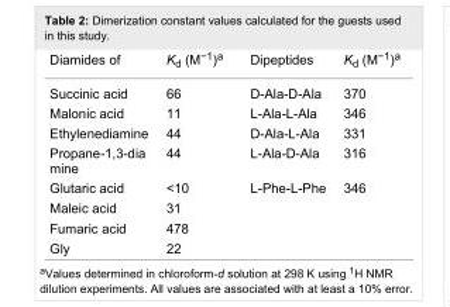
<table><tbody><tr><td>Diamides of</td><td>K<sub>d</sub> (M<sup>−1</sup>)<sup>a</sup></td><td>Dipeptides</td><td>K<sub>d</sub> (M<sup>−1</sup>)<sup>a</sup></td></tr><tr><td>Succinic acid</td><td>66</td><td>D-Ala-D-Ala</td><td>370</td></tr><tr><td>Malonic acid</td><td>11</td><td>L-Ala-L-Ala</td><td>346</td></tr><tr><td>Ethylenediamine</td><td>44</td><td>D-Ala-L-Ala</td><td>331</td></tr><tr><td>Propane-1,3-dia mine</td><td>44</td><td>L-Ala-D-Ala</td><td>316</td></tr><tr><td>Glutaric acid</td><td>&lt;10</td><td>L-Phe-L-Phe</td><td>346</td></tr><tr><td>Maleic acid</td><td>31</td><td></td><td></td></tr><tr><td>Fumaric acid</td><td>478</td><td></td><td></td></tr><tr><td>Gly</td><td>22</td><td></td><td></td></tr></tbody></table>